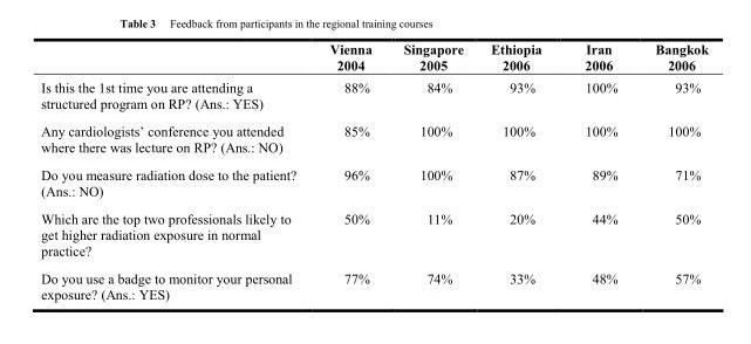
<table><thead><tr><td></td><td>Vienna 2004</td><td>Singapore 2005</td><td>Ethiopia 2006</td><td>Iran 2006</td><td>Bangkok 2006</td></tr></thead><tbody><tr><td>Is this the 1st time you are attending a structured program on RP? (Ans.: YES)</td><td>88%</td><td>84%</td><td>93%</td><td>100%</td><td>93%</td></tr><tr><td>Any cardiologists’ conference you attended where there was lecture on RP? (Ans.: NO)</td><td>85%</td><td>100%</td><td>100%</td><td>100%</td><td>100%</td></tr><tr><td>Do you measure radiation dose to the patient? (Ans.: NO)</td><td>96%</td><td>100%</td><td>87%</td><td>89%</td><td>71%</td></tr><tr><td>Which are the top two professionals likely to get higher radiation exposure in normal practice?</td><td>50%</td><td>11%</td><td>20%</td><td>44%</td><td>50%</td></tr><tr><td>Do you use a badge to monitor your personal exposure? (Ans.: YES)</td><td>77%</td><td>74%</td><td>33%</td><td>48%</td><td>57%</td></tr></tbody></table>